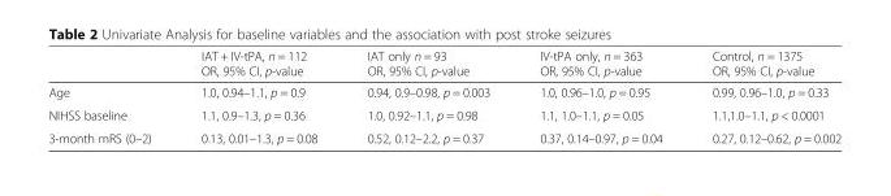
<table><thead><tr><td></td><td>IAT + IV-tPA, n = 112 OR, 95% CI, p-value</td><td>IAT only n = 93 OR, 95% CI, p-value</td><td>IV-tPA only, n = 363 OR, 95% CI, p-value</td><td>Control, n = 1375 OR, 95% CI, p-value</td></tr></thead><tbody><tr><td>Age</td><td>1.0, 0.94–1.1, p = 0.9</td><td>0.94, 0.9–0.98, p = 0.003</td><td>1.0, 0.96–1.0, p = 0.95</td><td>0.99, 0.96–1.0, p = 0.33</td></tr><tr><td>NIHSS baseline</td><td>1.1, 0.9–1.3, p = 0.36</td><td>1.0, 0.92–1.1, p = 0.98</td><td>1.1, 1.0–1.1, p = 0.05</td><td>1.1,1.0–1.1, p &lt; 0.0001</td></tr><tr><td>3-month mRS (0–2)</td><td>0.13, 0.01–1.3, p = 0.08</td><td>0.52, 0.12–2.2, p = 0.37</td><td>0.37, 0.14–0.97, p = 0.04</td><td>0.27, 0.12–0.62, p = 0.002</td></tr></tbody></table>